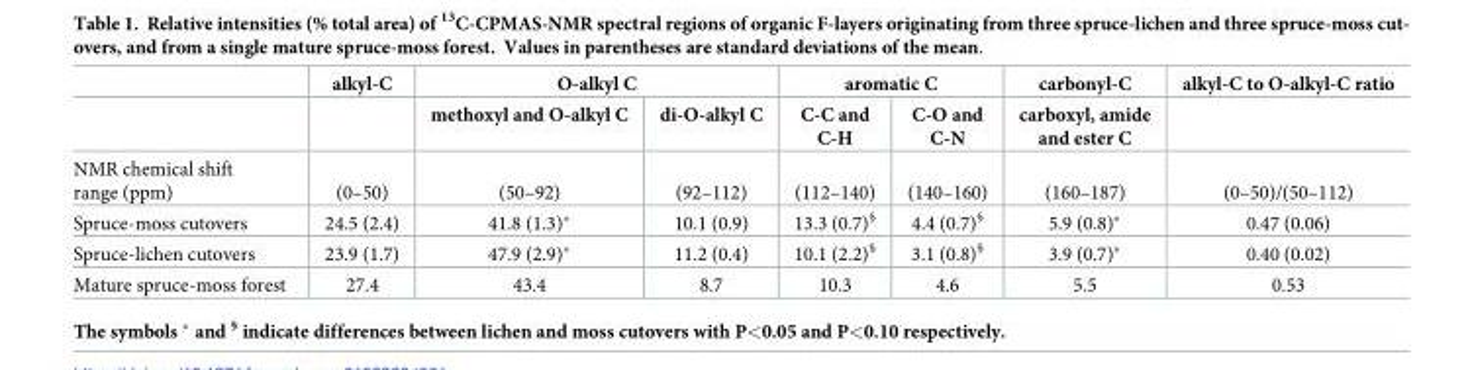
<table><thead><tr><td rowspan="2"></td><td rowspan="2">alkyl-C</td><td colspan="2">O-alkyl C</td><td colspan="2">aromatic C</td><td rowspan="2">carbonyl-C carboxyl, amide and ester C</td><td rowspan="2">alkyl-C to O-alkyl-C ratio</td></tr><tr><td>methoxyl and O-alkyl C</td><td>di-O-alkyl C</td><td>C-C and C-H</td><td>C-O and C-N</td></tr></thead><tbody><tr><td>NMR chemical shift range (ppm)</td><td>(0–50)</td><td>(50–92)</td><td>(92–112)</td><td>(112–140)</td><td>(140–160)</td><td>(160–187)</td><td>(0–50)/(50–112)</td></tr><tr><td>Spruce-moss cutovers</td><td>24.5 (2.4)</td><td>41.8 (1.3)*</td><td>10.1 (0.9)</td><td>13.3 (0.7)<sup>§</sup></td><td>4.4 (0.7)<sup>§</sup></td><td>5.9 (0.8)*</td><td>0.47 (0.06)</td></tr><tr><td>Spruce-lichen cutovers</td><td>23.9 (1.7)</td><td>47.9 (2.9)*</td><td>11.2 (0.4)</td><td>10.1 (2.2)<sup>§</sup></td><td>3.1 (0.8)<sup>§</sup></td><td>3.9 (0.7)*</td><td>0.40 (0.02)</td></tr><tr><td>Mature spruce-moss forest</td><td>27.4</td><td>43.4</td><td>8.7</td><td>10.3</td><td>4.6</td><td>5.5</td><td>0.53</td></tr></tbody></table>